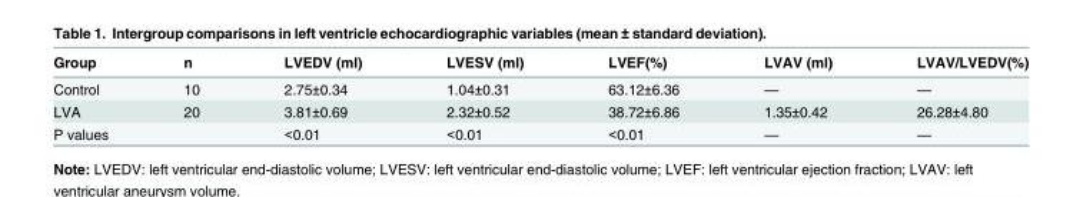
<table><thead><tr><td>Group</td><td>n</td><td>LVEDV (ml)</td><td>LVESV (ml)</td><td>LVEF(%)</td><td>LVAV (ml)</td><td>LVAV/LVEDV(%)</td></tr></thead><tbody><tr><td>Control</td><td>10</td><td>2.75±0.34</td><td>1.04±0.31</td><td>63.12±6.36</td><td>—</td><td>—</td></tr><tr><td>LVA</td><td>20</td><td>3.81±0.69</td><td>2.32±0.52</td><td>38.72±6.86</td><td>1.35±0.42</td><td>26.28±4.80</td></tr><tr><td colspan="2">P values</td><td>&lt;0.01</td><td>&lt;0.01</td><td>&lt;0.01</td><td>—</td><td>—</td></tr></tbody></table>